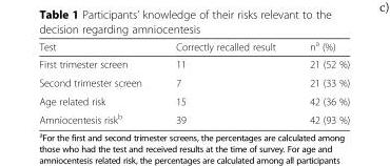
<table><thead><tr><td>Test</td><td>Correctly recalled result</td><td>n<sup>a</sup> (%)</td></tr></thead><tbody><tr><td>First trimester screen</td><td>11</td><td>21 (52 %)</td></tr><tr><td>Second trimester screen</td><td>7</td><td>21 (33 %)</td></tr><tr><td>Age related risk</td><td>15</td><td>42 (36 %)</td></tr><tr><td>Amniocentesis risk<sup>b</sup></td><td>39</td><td>42 (93 %)</td></tr></tbody></table>